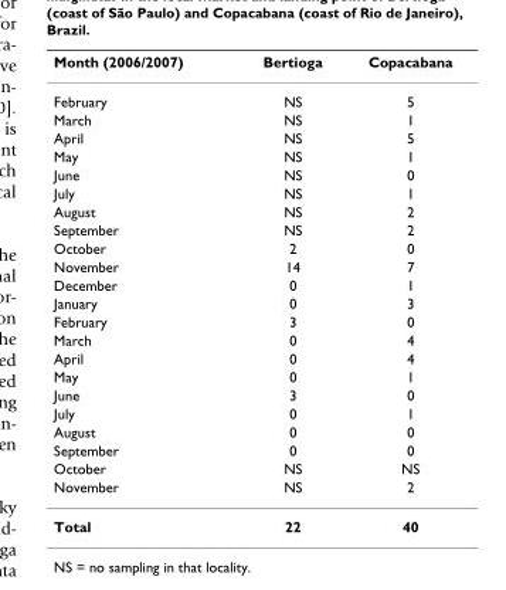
<table><thead><tr><td>Month (2006/2007)</td><td>Bertioga</td><td>Copacabana</td></tr></thead><tbody><tr><td>February</td><td>NS</td><td>5</td></tr><tr><td>March</td><td>NS</td><td>1</td></tr><tr><td>April</td><td>NS</td><td>5</td></tr><tr><td>May</td><td>NS</td><td>1</td></tr><tr><td>June</td><td>NS</td><td>0</td></tr><tr><td>July</td><td>NS</td><td>1</td></tr><tr><td>August</td><td>NS</td><td>2</td></tr><tr><td>September</td><td>NS</td><td>2</td></tr><tr><td>October</td><td>2</td><td>0</td></tr><tr><td>November</td><td>14</td><td>7</td></tr><tr><td>December</td><td>0</td><td>1</td></tr><tr><td>January</td><td>0</td><td>3</td></tr><tr><td>February</td><td>3</td><td>0</td></tr><tr><td>March</td><td>0</td><td>4</td></tr><tr><td>April</td><td>0</td><td>4</td></tr><tr><td>May</td><td>0</td><td>1</td></tr><tr><td>June</td><td>3</td><td>0</td></tr><tr><td>July</td><td>0</td><td>1</td></tr><tr><td>August</td><td>0</td><td>0</td></tr><tr><td>September</td><td>0</td><td>0</td></tr><tr><td>October</td><td>NS</td><td>NS</td></tr><tr><td>November</td><td>NS</td><td>2</td></tr><tr><td>Total</td><td>22</td><td>40</td></tr></tbody></table>